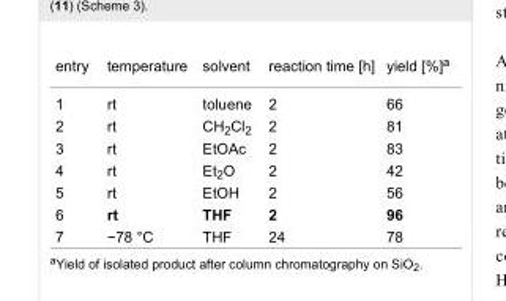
<table><tbody><tr><td>entry</td><td>temperature</td><td>solvent</td><td>reaction time [h]</td><td>yield [%]<sup>a</sup></td></tr><tr><td>1</td><td>rt</td><td>toluene</td><td>2</td><td>66</td></tr><tr><td>2</td><td>rt</td><td>CH<sub>2</sub>Cl<sub>2</sub></td><td>2</td><td>81</td></tr><tr><td>3</td><td>rt</td><td>EtOAc</td><td>2</td><td>83</td></tr><tr><td>4</td><td>rt</td><td>Et<sub>2</sub>O</td><td>2</td><td>42</td></tr><tr><td>5</td><td>rt</td><td>EtOH</td><td>2</td><td>56</td></tr><tr><td>6</td><td>rt</td><td>THF</td><td>2</td><td>96</td></tr><tr><td>7</td><td>−78 °C</td><td>THF</td><td>24</td><td>78</td></tr></tbody></table>